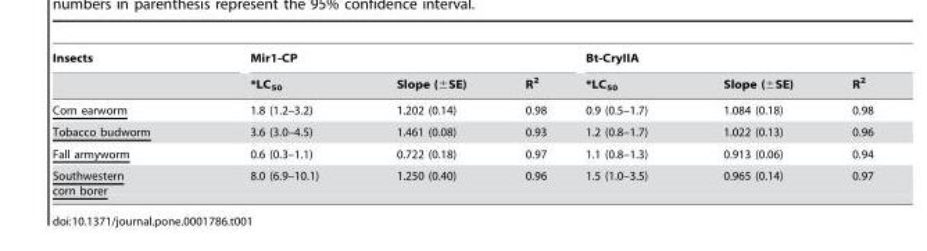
<table><thead><tr><td rowspan="2">Insects</td><td colspan="3">Mir1-CP</td><td colspan="3">Bt-CryIIA</td></tr><tr><td>*LC<sub>50</sub></td><td>Slope (±SE)</td><td>R<sup>2</sup></td><td>*LC<sub>50</sub></td><td>Slope (±SE)</td><td>R<sup>2</sup></td></tr></thead><tbody><tr><td>Corn earworm</td><td>1.8 (1.2–3.2)</td><td>1.202 (0.14)</td><td>0.98</td><td>0.9 (0.5–1.7)</td><td>1.084 (0.18)</td><td>0.98</td></tr><tr><td>Tobacco budworm</td><td>3.6 (3.0–4.5)</td><td>1.461 (0.08)</td><td>0.93</td><td>1.2 (0.8–1.7)</td><td>1.022 (0.13)</td><td>0.96</td></tr><tr><td>Fall armyworm</td><td>0.6 (0.3–1.1)</td><td>0.722 (0.18)</td><td>0.97</td><td>1.1 (0.8–1.3)</td><td>0.913 (0.06)</td><td>0.94</td></tr><tr><td>Southwestern corn borer</td><td>8.0 (6.9–10.1)</td><td>1.250 (0.40)</td><td>0.96</td><td>1.5 (1.0–3.5)</td><td>0.965 (0.14)</td><td>0.97</td></tr></tbody></table>